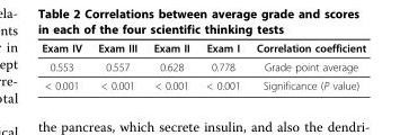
<table><thead><tr><td>Exam IV</td><td>Exam III</td><td>Exam II</td><td>Exam I</td><td>Correlation coefficient</td></tr></thead><tbody><tr><td>0.553</td><td>0.557</td><td>0.628</td><td>0.778</td><td>Grade point average</td></tr><tr><td>&lt; 0.001</td><td>&lt; 0.001</td><td>&lt; 0.001</td><td>&lt; 0.001</td><td>Significance (P value)</td></tr></tbody></table>